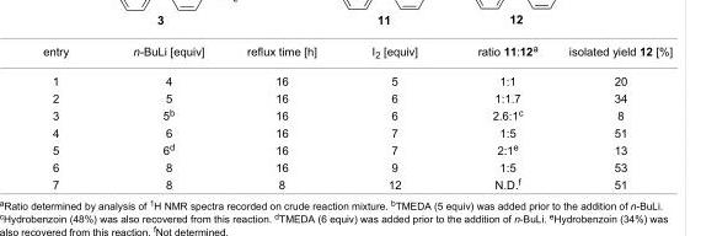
<table><tbody><tr><td>entry</td><td>n-BuLi [equiv]</td><td>reflux time [h]</td><td>I<sub>2</sub> [equiv]</td><td>ratio 11:12<sup>a</sup></td><td>isolated yield 12 [%]</td></tr><tr><td>1</td><td>4</td><td>16</td><td>5</td><td>1:1</td><td>20</td></tr><tr><td>2</td><td>5</td><td>16</td><td>6</td><td>1:1.7</td><td>34</td></tr><tr><td>3</td><td>5<sup>b</sup></td><td>16</td><td>6</td><td>2.6:1<sup>c</sup></td><td>8</td></tr><tr><td>4</td><td>6</td><td>16</td><td>7</td><td>1:5</td><td>51</td></tr><tr><td>5</td><td>6<sup>d</sup></td><td>16</td><td>7</td><td>2:1<sup>e</sup></td><td>13</td></tr><tr><td>6</td><td>8</td><td>16</td><td>9</td><td>1:5</td><td>53</td></tr><tr><td>7</td><td>8</td><td>8</td><td>12</td><td>N.D.<sup>f</sup></td><td>51</td></tr></tbody></table>